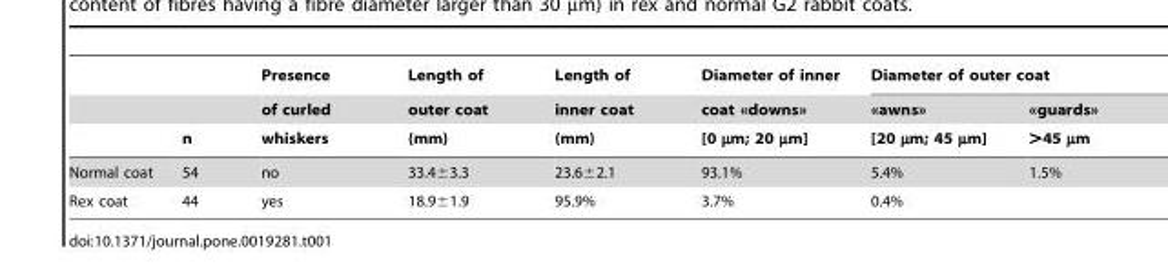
<table><thead><tr><td rowspan="3"></td><td rowspan="3">n</td><td rowspan="3">Presence of curled whiskers</td><td rowspan="3">Length of outer coat (mm)</td><td rowspan="3">Length of inner coat (mm)</td><td rowspan="3">Diameter of inner coat «downs» [0 µm; 20 µm]</td><td colspan="2">Diameter of outer coat</td></tr><tr><td rowspan="2">«awns» [20 µm; 45 µm]</td><td rowspan="2">«guards» &gt;45 µm</td></tr><tr></tr></thead><tbody><tr><td>Normal coat</td><td>54</td><td>no</td><td>33.4±3.3</td><td>23.6±2.1</td><td>93.1%</td><td>5.4%</td><td>1.5%</td></tr><tr><td>Rex coat</td><td>44</td><td>yes</td><td>18.9±1.9</td><td>95.9%</td><td>3.7%</td><td>0.4%</td><td></td></tr></tbody></table>